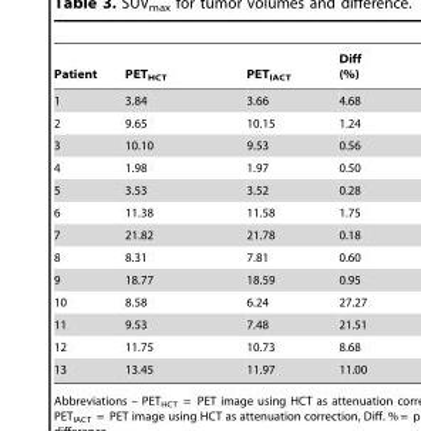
<table><thead><tr><td>Patient</td><td>PET<sub>HCT</sub></td><td>PET<sub>IACT</sub></td><td>Diff (%)</td></tr></thead><tbody><tr><td>1</td><td>3.84</td><td>3.66</td><td>4.68</td></tr><tr><td>2</td><td>9.65</td><td>10.15</td><td>1.24</td></tr><tr><td>3</td><td>10.10</td><td>9.53</td><td>0.56</td></tr><tr><td>4</td><td>1.98</td><td>1.97</td><td>0.50</td></tr><tr><td>5</td><td>3.53</td><td>3.52</td><td>0.28</td></tr><tr><td>6</td><td>11.38</td><td>11.58</td><td>1.75</td></tr><tr><td>7</td><td>21.82</td><td>21.78</td><td>0.18</td></tr><tr><td>8</td><td>8.31</td><td>7.81</td><td>0.60</td></tr><tr><td>9</td><td>18.77</td><td>18.59</td><td>0.95</td></tr><tr><td>10</td><td>8.58</td><td>6.24</td><td>27.27</td></tr><tr><td>11</td><td>9.53</td><td>7.48</td><td>21.51</td></tr><tr><td>12</td><td>11.75</td><td>10.73</td><td>8.68</td></tr><tr><td>13</td><td>13.45</td><td>11.97</td><td>11.00</td></tr></tbody></table>